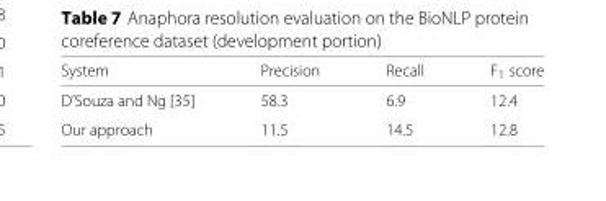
<table><thead><tr><td>System</td><td>Precision</td><td>Recall</td><td>F<sub>1</sub> score</td></tr></thead><tbody><tr><td>D’Souza and Ng [35]</td><td>58.3</td><td>6.9</td><td>12.4</td></tr><tr><td>Our approach</td><td>11.5</td><td>14.5</td><td>12.8</td></tr></tbody></table>